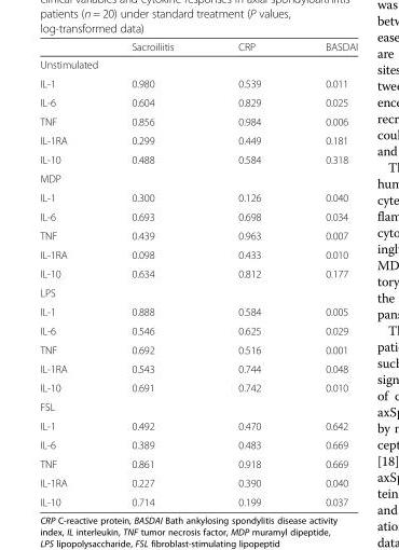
<table><thead><tr><td></td><td>Sacroiliitis</td><td>CRP</td><td>BASDAI</td></tr></thead><tbody><tr><td colspan="4">Unstimulated</td></tr><tr><td>IL-1</td><td>0.980</td><td>0.539</td><td>0.011</td></tr><tr><td>IL-6</td><td>0.604</td><td>0.829</td><td>0.025</td></tr><tr><td>TNF</td><td>0.856</td><td>0.984</td><td>0.006</td></tr><tr><td>IL-1RA</td><td>0.299</td><td>0.449</td><td>0.181</td></tr><tr><td>IL-10</td><td>0.488</td><td>0.584</td><td>0.318</td></tr><tr><td colspan="4">MDP</td></tr><tr><td>IL-1</td><td>0.300</td><td>0.126</td><td>0.040</td></tr><tr><td>IL-6</td><td>0.693</td><td>0.698</td><td>0.034</td></tr><tr><td>TNF</td><td>0.439</td><td>0.963</td><td>0.007</td></tr><tr><td>IL-1RA</td><td>0.098</td><td>0.433</td><td>0.010</td></tr><tr><td>IL-10</td><td>0.634</td><td>0.812</td><td>0.177</td></tr><tr><td colspan="4">LPS</td></tr><tr><td>IL-1</td><td>0.888</td><td>0.584</td><td>0.005</td></tr><tr><td>IL-6</td><td>0.546</td><td>0.625</td><td>0.029</td></tr><tr><td>TNF</td><td>0.692</td><td>0.516</td><td>0.001</td></tr><tr><td>IL-1RA</td><td>0.543</td><td>0.744</td><td>0.048</td></tr><tr><td>IL-10</td><td>0.691</td><td>0.742</td><td>0.010</td></tr><tr><td colspan="4">FSL</td></tr><tr><td>IL-1</td><td>0.492</td><td>0.470</td><td>0.642</td></tr><tr><td>IL-6</td><td>0.389</td><td>0.483</td><td>0.669</td></tr><tr><td>TNF</td><td>0.861</td><td>0.918</td><td>0.669</td></tr><tr><td>IL-1RA</td><td>0.227</td><td>0.390</td><td>0.040</td></tr><tr><td>IL-10</td><td>0.714</td><td>0.199</td><td>0.037</td></tr></tbody></table>